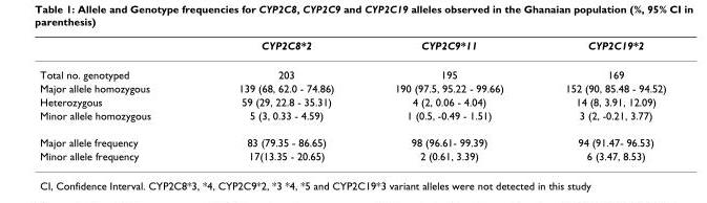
<table><thead><tr><td></td><td>CYP2C8*2</td><td>CYP2C9*11</td><td>CYP2C19*2</td></tr></thead><tbody><tr><td>Total no. genotyped</td><td>203</td><td>195</td><td>169</td></tr><tr><td>Major allele homozygous</td><td>139 (68, 62.0 - 74.86)</td><td>190 (97.5, 95.22 - 99.66)</td><td>152 (90, 85.48 - 94.52)</td></tr><tr><td>Heterozygous</td><td>59 (29, 22.8 - 35.31)</td><td>4 (2, 0.06 - 4.04)</td><td>14 (8, 3.91, 12.09)</td></tr><tr><td>Minor allele homozygous</td><td>5 (3, 0.33 - 4.59)</td><td>1 (0.5, -0.49 - 1.51)</td><td>3 (2, -0.21, 3.77)</td></tr><tr><td>Major allele frequency</td><td>83 (79.35 - 86.65)</td><td>98 (96.61- 99.39)</td><td>94 (91.47- 96.53)</td></tr><tr><td>Minor allele frequency</td><td>17(13.35 - 20.65)</td><td>2 (0.61, 3.39)</td><td>6 (3.47, 8.53)</td></tr></tbody></table>